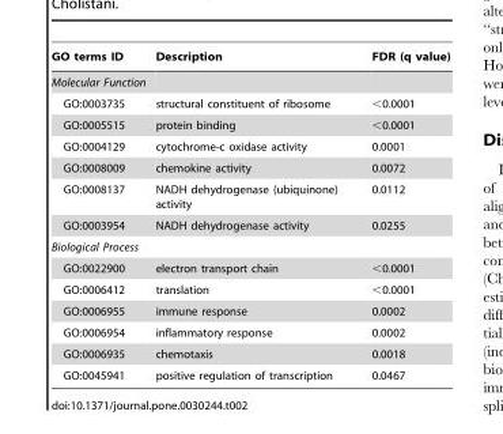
<table><thead><tr><td>GO terms ID</td><td>Description</td><td>FDR (q value)</td></tr></thead><tbody><tr><td colspan="3">Molecular Function</td></tr><tr><td>GO:0003735</td><td>structural constituent of ribosome</td><td>&lt;0.0001</td></tr><tr><td>GO:0005515</td><td>protein binding</td><td>&lt;0.0001</td></tr><tr><td>GO:0004129</td><td>cytochrome-c oxidase activity</td><td>0.0001</td></tr><tr><td>GO:0008009</td><td>chemokine activity</td><td>0.0072</td></tr><tr><td>GO:0008137</td><td>NADH dehydrogenase (ubiquinone) activity</td><td>0.0112</td></tr><tr><td>GO:0003954</td><td>NADH dehydrogenase activity</td><td>0.0255</td></tr><tr><td colspan="3">Biological Process</td></tr><tr><td>GO:0022900</td><td>electron transport chain</td><td>&lt;0.0001</td></tr><tr><td>GO:0006412</td><td>translation</td><td>&lt;0.0001</td></tr><tr><td>GO:0006955</td><td>immune response</td><td>0.0002</td></tr><tr><td>GO:0006954</td><td>inflammatory response</td><td>0.0002</td></tr><tr><td>GO:0006935</td><td>chemotaxis</td><td>0.0018</td></tr><tr><td>GO:0045941</td><td>positive regulation of transcription</td><td>0.0467</td></tr></tbody></table>